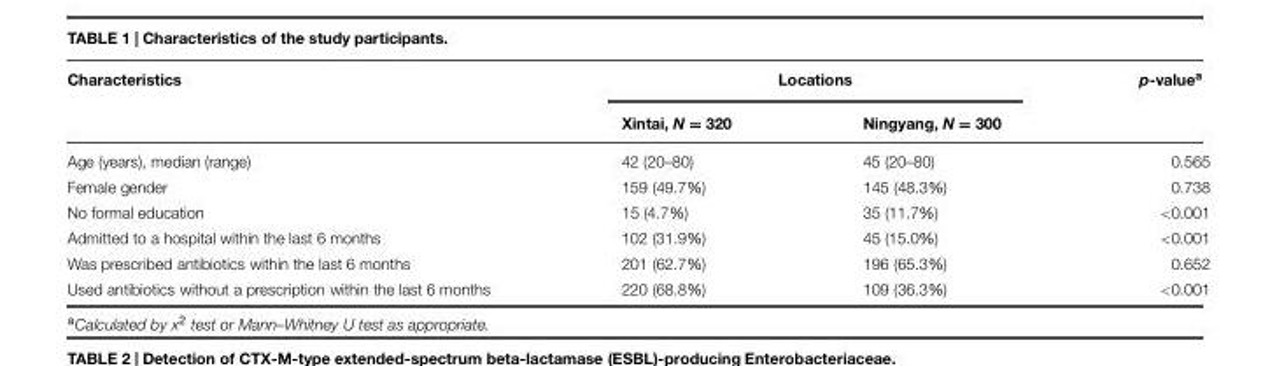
<table><thead><tr><td rowspan="2">Characteristics</td><td colspan="2">Locations</td><td rowspan="2">p-value<sup>a</sup></td></tr><tr><td>Xintai, N = 320</td><td>Ningyang, N = 300</td></tr></thead><tbody><tr><td>Age (years), median (range)</td><td>42 (20–80)</td><td>45 (20–80)</td><td>0.565</td></tr><tr><td>Female gender</td><td>159 (49.7%)</td><td>145 (48.3%)</td><td>0.738</td></tr><tr><td>No formal education</td><td>15 (4.7%)</td><td>35 (11.7%)</td><td>&lt;0.001</td></tr><tr><td>Admitted to a hospital within the last 6 months</td><td>102 (31.9%)</td><td>45 (15.0%)</td><td>&lt;0.001</td></tr><tr><td>Was prescribed antibiotics within the last 6 months</td><td>201 (62.7%)</td><td>196 (65.3%)</td><td>0.652</td></tr><tr><td>Used antibiotics without a prescription within the last 6 months</td><td>220 (68.8%)</td><td>109 (36.3%)</td><td>&lt;0.001</td></tr></tbody></table>